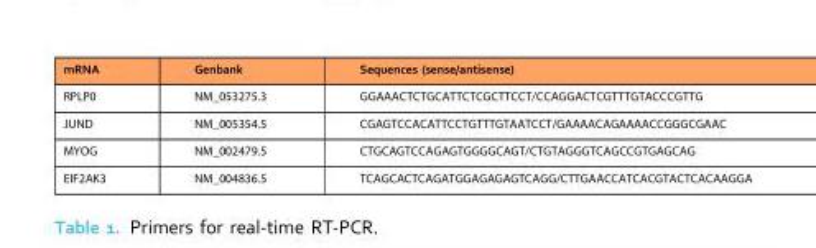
<table><thead><tr><td>mRNA</td><td>Genbank</td><td>Sequences (sense/antisense)</td></tr></thead><tbody><tr><td>RPLP0</td><td>NM_053275.3</td><td>GGAAACTCTGCATTCTCGCTTCCT/CCAGGACTCGTTTGTACCCGTTG</td></tr><tr><td>JUND</td><td>NM_005354.5</td><td>CGAGTCCACATTCCTGTTTGTAATCCT/GAAAACAGAAAACCGGGCGAAC</td></tr><tr><td>MYOG</td><td>NM_002479.5</td><td>CTGCAGTCCAGAGTGGGGCAGT/CTGTAGGGTCAGCCGTGAGCAG</td></tr><tr><td>EIF2AK3</td><td>NM_004836.5</td><td>TCAGCACTCAGATGGAGAGAGTCAGG/CTTGAACCATCACGTACTCACAAGGA</td></tr></tbody></table>